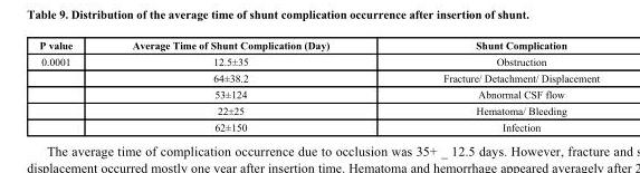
<table><thead><tr><td>P value</td><td>Average Time of Shunt Complication (Day)</td><td>Shunt Complication</td></tr></thead><tbody><tr><td rowspan="5">0.0001</td><td>12.5±35</td><td>Obstruction</td></tr><tr><td>64±38.2</td><td>Fracture/ Detachment/ Displacement</td></tr><tr><td>53±124</td><td>Abnormal CSF flow</td></tr><tr><td>22±25</td><td>Hematoma/ Bleeding</td></tr><tr><td>62±150</td><td>Infection</td></tr></tbody></table>